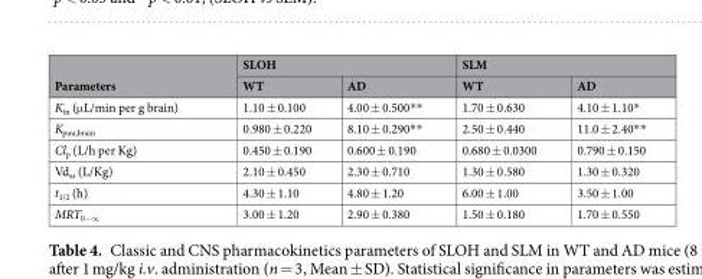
<table><thead><tr><td rowspan="2">Parameters</td><td colspan="2">SLOH</td><td colspan="2">SLM</td></tr><tr><td>WT</td><td>AD</td><td>WT</td><td>AD</td></tr></thead><tbody><tr><td>K<sub>in</sub> (μL/min per g brain)</td><td>1.10 ± 0.100</td><td>4.00 ± 0.500**</td><td>1.70 ± 0.630</td><td>4.10 ± 1.10*</td></tr><tr><td>K<sub>puu,brain</sub></td><td>0.980 ± 0.220</td><td>8.10 ± 0.290**</td><td>2.50 ± 0.440</td><td>11.0 ± 2.40**</td></tr><tr><td>Cl<sub>p</sub> (L/h per Kg)</td><td>0.450 ± 0.190</td><td>0.600 ± 0.190</td><td>0.680 ± 0.0300</td><td>0.790 ± 0.150</td></tr><tr><td>Vd<sub>ss</sub> (L/Kg)</td><td>2.10 ± 0.450</td><td>2.30 ± 0.710</td><td>1.30 ± 0.580</td><td>1.30 ± 0.320</td></tr><tr><td>t<sub>1/2</sub> (h)</td><td>4.30 ± 1.10</td><td>4.80 ± 1.20</td><td>6.00 ± 1.00</td><td>3.50 ± 1.00</td></tr><tr><td>MRT<sub>0−∞</sub></td><td>3.00 ± 1.20</td><td>2.90 ± 0.380</td><td>1.50 ± 0.180</td><td>1.70 ± 0.550</td></tr></tbody></table>